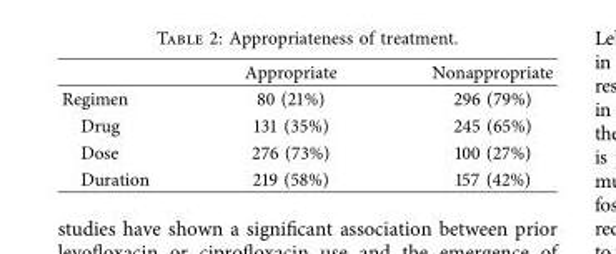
<table><thead><tr><td></td><td>Appropriate</td><td>Nonappropriate</td></tr></thead><tbody><tr><td>Regimen</td><td>80 (21%)</td><td>296 (79%)</td></tr><tr><td>Drug</td><td>131 (35%)</td><td>245 (65%)</td></tr><tr><td>Dose</td><td>276 (73%)</td><td>100 (27%)</td></tr><tr><td>Duration</td><td>219 (58%)</td><td>157 (42%)</td></tr></tbody></table>